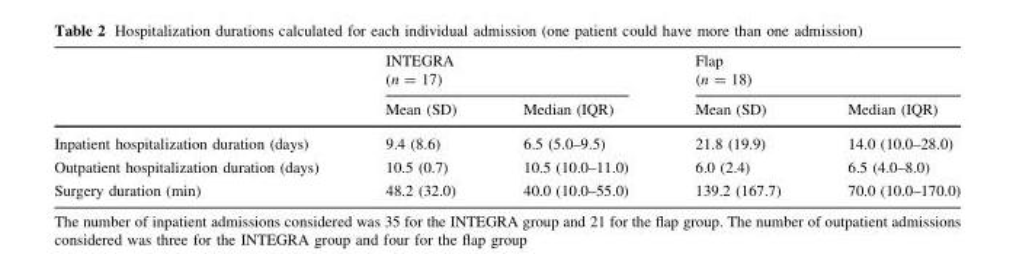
<table><thead><tr><td rowspan="2"></td><td colspan="2">INTEGRA (n = 17)</td><td colspan="2">Flap (n = 18)</td></tr><tr><td>Mean (SD)</td><td>Median (IQR)</td><td>Mean (SD)</td><td>Median (IQR)</td></tr></thead><tbody><tr><td>Inpatient hospitalization duration (days)</td><td>9.4 (8.6)</td><td>6.5 (5.0–9.5)</td><td>21.8 (19.9)</td><td>14.0 (10.0–28.0)</td></tr><tr><td>Outpatient hospitalization duration (days)</td><td>10.5 (0.7)</td><td>10.5 (10.0–11.0)</td><td>6.0 (2.4)</td><td>6.5 (4.0–8.0)</td></tr><tr><td>Surgery duration (min)</td><td>48.2 (32.0)</td><td>40.0 (10.0–55.0)</td><td>139.2 (167.7)</td><td>70.0 (10.0–170.0)</td></tr></tbody></table>